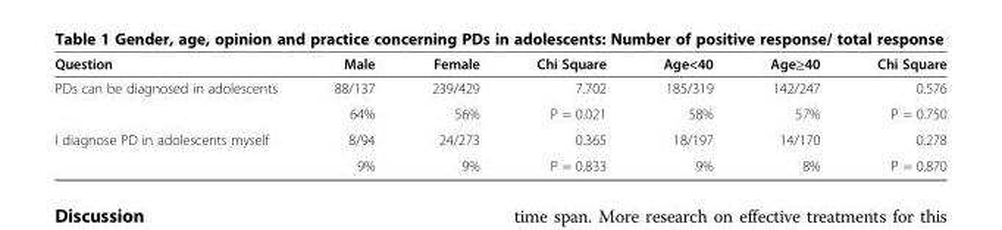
<table><thead><tr><td>Question</td><td>Male</td><td>Female</td><td>Chi Square</td><td>Age&lt;40</td><td>Age≥40</td><td>Chi Square</td></tr></thead><tbody><tr><td rowspan="2">PDs can be diagnosed in adolescents</td><td>88/137</td><td>239/429</td><td>7.702</td><td>185/319</td><td>142/247</td><td>0.576</td></tr><tr><td>64%</td><td>56%</td><td>P = 0.021</td><td>58%</td><td>57%</td><td>P = 0.750</td></tr><tr><td rowspan="2">I diagnose PD in adolescents myself</td><td>8/94</td><td>24/273</td><td>0.365</td><td>18/197</td><td>14/170</td><td>0.278</td></tr><tr><td>9%</td><td>9%</td><td>P = 0.833</td><td>9%</td><td>8%</td><td>P = 0.870</td></tr></tbody></table>